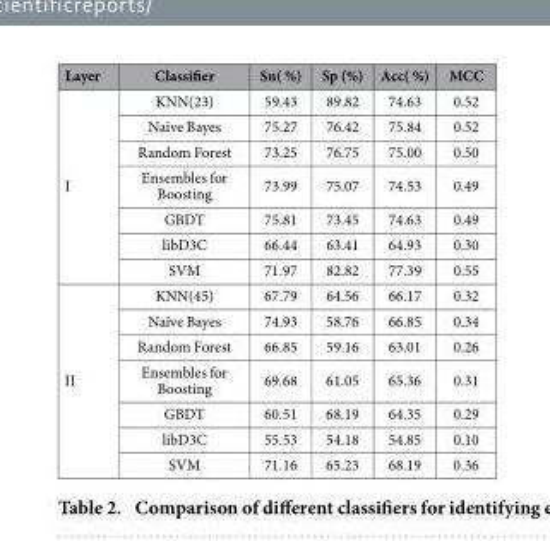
<table><thead><tr><td>Layer</td><td>Classifier</td><td>Sn( %)</td><td>Sp (%)</td><td>Acc( %)</td><td>MCC</td></tr></thead><tbody><tr><td rowspan="7">I</td><td>KNN(23)</td><td>59.43</td><td>89.82</td><td>74.63</td><td>0.52</td></tr><tr><td>Naïve Bayes</td><td>75.27</td><td>76.42</td><td>75.84</td><td>0.52</td></tr><tr><td>Random Forest</td><td>73.25</td><td>76.75</td><td>75.00</td><td>0.50</td></tr><tr><td>Ensembles for Boosting</td><td>73.99</td><td>75.07</td><td>74.53</td><td>0.49</td></tr><tr><td>GBDT</td><td>75.81</td><td>73.45</td><td>74.63</td><td>0.49</td></tr><tr><td>libD3C</td><td>66.44</td><td>63.41</td><td>64.93</td><td>0.30</td></tr><tr><td>SVM</td><td>71.97</td><td>82.82</td><td>77.39</td><td>0.55</td></tr><tr><td rowspan="7">II</td><td>KNN(45)</td><td>67.79</td><td>64.56</td><td>66.17</td><td>0.32</td></tr><tr><td>Naïve Bayes</td><td>74.93</td><td>58.76</td><td>66.85</td><td>0.34</td></tr><tr><td>Random Forest</td><td>66.85</td><td>59.16</td><td>63.01</td><td>0.26</td></tr><tr><td>Ensembles for Boosting</td><td>69.68</td><td>61.05</td><td>65.36</td><td>0.31</td></tr><tr><td>GBDT</td><td>60.51</td><td>68.19</td><td>64.35</td><td>0.29</td></tr><tr><td>libD3C</td><td>55.53</td><td>54.18</td><td>54.85</td><td>0.10</td></tr><tr><td>SVM</td><td>71.16</td><td>65.23</td><td>68.19</td><td>0.36</td></tr></tbody></table>